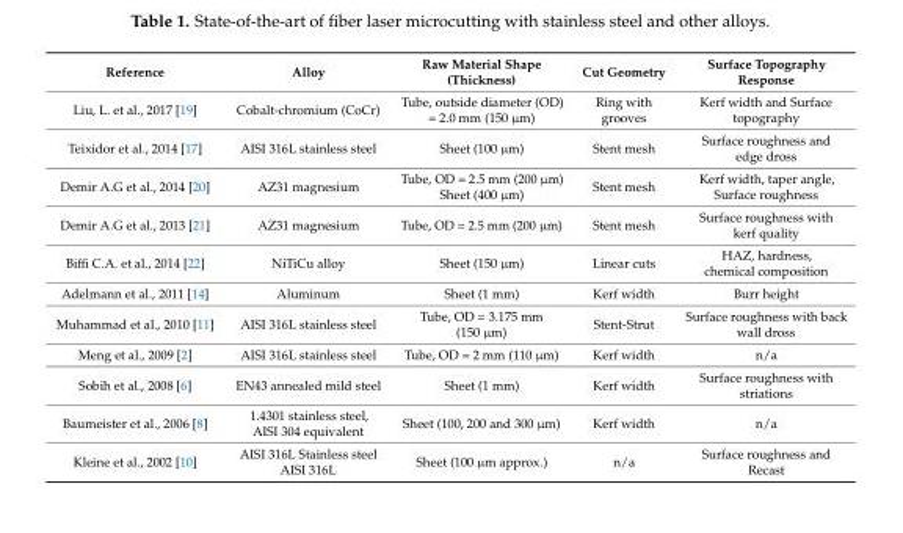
<table><thead><tr><td>Reference</td><td>Alloy</td><td>Raw Material Shape (Thickness)</td><td>Cut Geometry</td><td>Surface Topography Response</td></tr></thead><tbody><tr><td>Liu, L. et al., 2017 [19]</td><td>Cobalt-chromium (CoCr)</td><td>Tube, outside diameter (OD) = 2.0 mm (150 µm)</td><td>Ring with grooves</td><td>Kerf width and Surface topography</td></tr><tr><td>Teixidor et al., 2014 [17]</td><td>AISI 316L stainless steel</td><td>Sheet (100 µm)</td><td>Stent mesh</td><td>Surface roughness and edge dross</td></tr><tr><td>Demir A.G et al., 2014 [20]</td><td>AZ31 magnesium</td><td>Tube, OD = 2.5 mm (200 µm) Sheet (400 µm)</td><td>Stent mesh</td><td>Kerf width, taper angle, Surface roughness</td></tr><tr><td>Demir A.G et al., 2013 [21]</td><td>AZ31 magnesium</td><td>Tube, OD = 2.5 mm (200 µm)</td><td>Stent mesh</td><td>Surface roughness with kerf quality</td></tr><tr><td>Biffi C.A. et al., 2014 [22]</td><td>NiTiCu alloy</td><td>Sheet (150 µm)</td><td>Linear cuts</td><td>HAZ, hardness, chemical composition</td></tr><tr><td>Adelmann et al., 2011 [14]</td><td>Aluminum</td><td>Sheet (1 mm)</td><td>Kerf width</td><td>Burr height</td></tr><tr><td>Muhammad et al., 2010 [11]</td><td>AISI 316L stainless steel</td><td>Tube, OD = 3.175 mm (150 µm)</td><td>Stent-Strut</td><td>Surface roughness with back wall dross</td></tr><tr><td>Meng et al., 2009 [2]</td><td>AISI 316L stainless steel</td><td>Tube, OD = 2 mm (110 µm)</td><td>Kerf width</td><td>n/a</td></tr><tr><td>Sobih et al., 2008 [6]</td><td>EN43 annealed mild steel</td><td>Sheet (1 mm)</td><td>Kerf width</td><td>Surface roughness with striations</td></tr><tr><td>Baumeister et al., 2006 [8]</td><td>1.4301 stainless steel, AISI 304 equivalent</td><td>Sheet (100, 200 and 300 µm)</td><td>Kerf width</td><td>n/a</td></tr><tr><td>Kleine et al., 2002 [10]</td><td>AISI 316L Stainless steel AISI 316L</td><td>Sheet (100 µm approx.)</td><td>n/a</td><td>Surface roughness and Recast</td></tr></tbody></table>